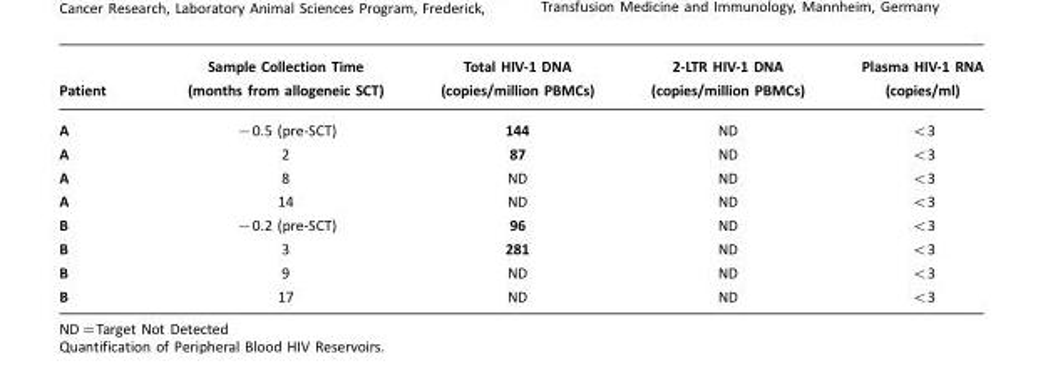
<table><thead><tr><td>Patient</td><td>Sample Collection Time (months from allogeneic SCT)</td><td>Total HIV-1 DNA (copies/million PBMCs)</td><td>2-LTR HIV-1 DNA (copies/million PBMCs)</td><td>Plasma HIV-1 RNA (copies/ml)</td></tr></thead><tbody><tr><td>A</td><td>−0.5 (pre-SCT)</td><td>144</td><td>ND</td><td>&lt;3</td></tr><tr><td>A</td><td>2</td><td>87</td><td>ND</td><td>&lt;3</td></tr><tr><td>A</td><td>8</td><td>ND</td><td>ND</td><td>&lt;3</td></tr><tr><td>A</td><td>14</td><td>ND</td><td>ND</td><td>&lt;3</td></tr><tr><td>B</td><td>−0.2 (pre-SCT)</td><td>96</td><td>ND</td><td>&lt;3</td></tr><tr><td>B</td><td>3</td><td>281</td><td>ND</td><td>&lt;3</td></tr><tr><td>B</td><td>9</td><td>ND</td><td>ND</td><td>&lt;3</td></tr><tr><td>B</td><td>17</td><td>ND</td><td>ND</td><td>&lt;3</td></tr></tbody></table>